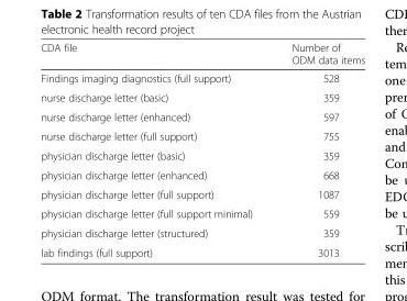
<table><thead><tr><td>CDA file</td><td>Number of ODM data items</td></tr></thead><tbody><tr><td>Findings imaging diagnostics (full support)</td><td>528</td></tr><tr><td>nurse discharge letter (basic)</td><td>359</td></tr><tr><td>nurse discharge letter (enhanced)</td><td>597</td></tr><tr><td>nurse discharge letter (full support)</td><td>755</td></tr><tr><td>physician discharge letter (basic)</td><td>359</td></tr><tr><td>physician discharge letter (enhanced)</td><td>668</td></tr><tr><td>physician discharge letter (full support)</td><td>1087</td></tr><tr><td>physician discharge letter (full support minimal)</td><td>559</td></tr><tr><td>physician discharge letter (structured)</td><td>359</td></tr><tr><td>lab findings (full support)</td><td>3013</td></tr></tbody></table>